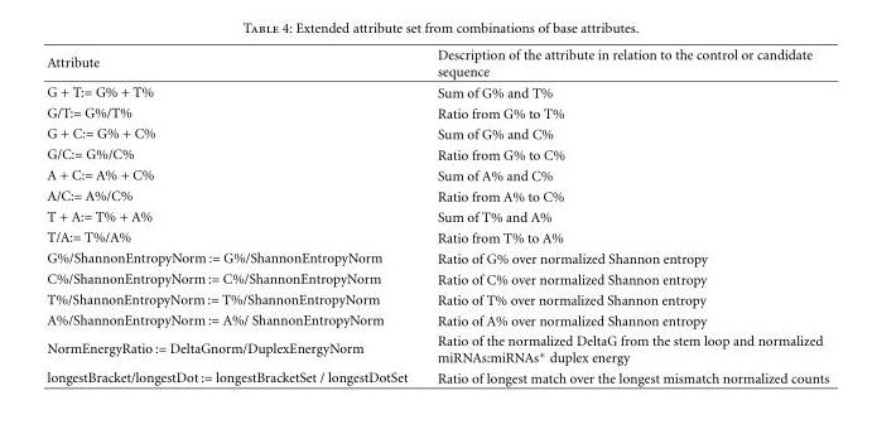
<table><thead><tr><td>Attribute</td><td>Description of the attribute in relation to the control or candidate sequence</td></tr></thead><tbody><tr><td>G + T:= G% + T%</td><td>Sum of G% and T%</td></tr><tr><td>G/T:= G%/T%</td><td>Ratio from G% to T%</td></tr><tr><td>G + C:= G% + C%</td><td>Sum of G% and C%</td></tr><tr><td>G/C:= G%/C%</td><td>Ratio from G% to C%</td></tr><tr><td>A + C:= A% + C%</td><td>Sum of A% and C%</td></tr><tr><td>A/C:= A%/C%</td><td>Ratio from A% to C%</td></tr><tr><td>T + A:= T% + A%</td><td>Sum of T% and A%</td></tr><tr><td>T/A:= T%/A%</td><td>Ratio from T% to A%</td></tr><tr><td>G%/ShannonEntropyNorm := G%/ShannonEntropyNorm</td><td>Ratio of G% over normalized Shannon entropy</td></tr><tr><td>C%/ShannonEntropyNorm := C%/ShannonEntropyNorm</td><td>Ratio of C% over normalized Shannon entropy</td></tr><tr><td>T%/ShannonEntropyNorm := T%/ShannonEntropyNorm</td><td>Ratio of T% over normalized Shannon entropy</td></tr><tr><td>A%/ShannonEntropyNorm := A%/ ShannonEntropyNorm</td><td>Ratio of A% over normalized Shannon entropy</td></tr><tr><td>NormEnergyRatio := DeltaGnorm/DuplexEnergyNorm</td><td>Ratio of the normalized DeltaG from the stem loop and normalized miRNAs:miRNAs∗ duplex energy</td></tr><tr><td>longestBracket/longestDot := longestBracketSet / longestDotSet</td><td>Ratio of longest match over the longest mismatch normalized counts</td></tr></tbody></table>